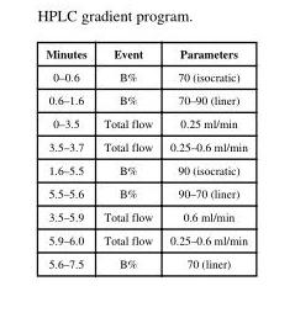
<table><thead><tr><td>Minutes</td><td>Event</td><td>Parameters</td></tr></thead><tbody><tr><td>0–0.6</td><td>B%</td><td>70 (isocratic)</td></tr><tr><td>0.6–1.6</td><td>B%</td><td>70–90 (liner)</td></tr><tr><td>0–3.5</td><td>Total flow</td><td>0.25 ml/min</td></tr><tr><td>3.5–3.7</td><td>Total flow</td><td>0.25–0.6 ml/min</td></tr><tr><td>1.6–5.5</td><td>B%</td><td>90 (isocratic)</td></tr><tr><td>5.5–5.6</td><td>B%</td><td>90–70 (liner)</td></tr><tr><td>3.5–5.9</td><td>Total flow</td><td>0.6 ml/min</td></tr><tr><td>5.9–6.0</td><td>Total flow</td><td>0.25–0.6 ml/min</td></tr><tr><td>5.6–7.5</td><td>B%</td><td>70 (liner)</td></tr></tbody></table>